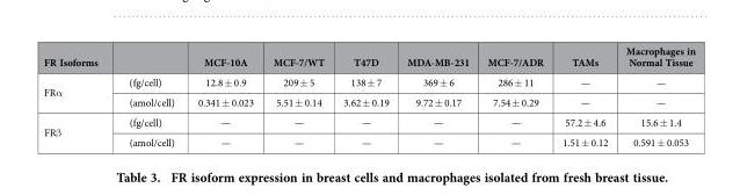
<table><thead><tr><td>FR Isoforms</td><td></td><td>MCF-10A</td><td>MCF-7/WT</td><td>T47D</td><td>MDA-MB-231</td><td>MCF-7/ADR</td><td>TAMs</td><td>Macrophages in Normal Tissue</td></tr></thead><tbody><tr><td rowspan="2">FRα</td><td>(fg/cell)</td><td>12.8 ± 0.9</td><td>209 ± 5</td><td>138 ± 7</td><td>369 ± 6</td><td>286 ± 11</td><td>—</td><td>—</td></tr><tr><td>(amol/cell)</td><td>0.341 ± 0.023</td><td>5.51 ± 0.14</td><td>3.62 ± 0.19</td><td>9.72 ± 0.17</td><td>7.54 ± 0.29</td><td>—</td><td>—</td></tr><tr><td rowspan="2">FRβ</td><td>(fg/cell)</td><td>—</td><td>—</td><td>—</td><td>—</td><td>—</td><td>57.2 ± 4.6</td><td>15.6 ± 1.4</td></tr><tr><td>(amol/cell)</td><td>—</td><td>—</td><td>—</td><td>—</td><td>—</td><td>1.51 ± 0.12</td><td>0.591 ± 0.053</td></tr></tbody></table>